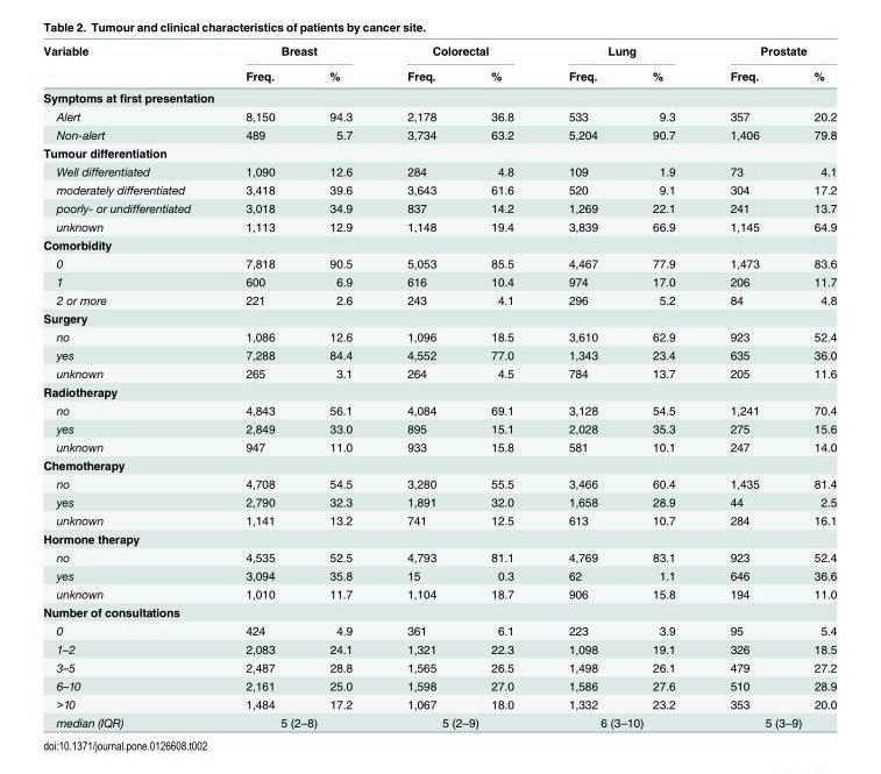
<table><thead><tr><td rowspan="2">Variable</td><td colspan="2">Breast</td><td colspan="2">Colorectal</td><td colspan="2">Lung</td><td colspan="2">Prostate</td></tr><tr><td>Freq.</td><td>%</td><td>Freq.</td><td>%</td><td>Freq.</td><td>%</td><td>Freq.</td><td>%</td></tr></thead><tbody><tr><td colspan="9">Symptoms at first presentation</td></tr><tr><td>Alert</td><td>8,150</td><td>94.3</td><td>2,178</td><td>36.8</td><td>533</td><td>9.3</td><td>357</td><td>20.2</td></tr><tr><td>Non-alert</td><td>489</td><td>5.7</td><td>3,734</td><td>63.2</td><td>5,204</td><td>90.7</td><td>1,406</td><td>79.8</td></tr><tr><td colspan="9">Tumour differentiation</td></tr><tr><td>Well differentiated</td><td>1,090</td><td>12.6</td><td>284</td><td>4.8</td><td>109</td><td>1.9</td><td>73</td><td>4.1</td></tr><tr><td>moderately differentiated</td><td>3,418</td><td>39.6</td><td>3,643</td><td>61.6</td><td>520</td><td>9.1</td><td>304</td><td>17.2</td></tr><tr><td>poorly- or undifferentiated</td><td>3,018</td><td>34.9</td><td>837</td><td>14.2</td><td>1,269</td><td>22.1</td><td>241</td><td>13.7</td></tr><tr><td>unknown</td><td>1,113</td><td>12.9</td><td>1,148</td><td>19.4</td><td>3,839</td><td>66.9</td><td>1,145</td><td>64.9</td></tr><tr><td colspan="9">Comorbidity</td></tr><tr><td>0</td><td>7,818</td><td>90.5</td><td>5,053</td><td>85.5</td><td>4,467</td><td>77.9</td><td>1,473</td><td>83.6</td></tr><tr><td>1</td><td>600</td><td>6.9</td><td>616</td><td>10.4</td><td>974</td><td>17.0</td><td>206</td><td>11.7</td></tr><tr><td>2 or more</td><td>221</td><td>2.6</td><td>243</td><td>4.1</td><td>296</td><td>5.2</td><td>84</td><td>4.8</td></tr><tr><td colspan="9">Surgery</td></tr><tr><td>no</td><td>1,086</td><td>12.6</td><td>1,096</td><td>18.5</td><td>3,610</td><td>62.9</td><td>923</td><td>52.4</td></tr><tr><td>yes</td><td>7,288</td><td>84.4</td><td>4,552</td><td>77.0</td><td>1,343</td><td>23.4</td><td>635</td><td>36.0</td></tr><tr><td>unknown</td><td>265</td><td>3.1</td><td>264</td><td>4.5</td><td>784</td><td>13.7</td><td>205</td><td>11.6</td></tr><tr><td colspan="9">Radiotherapy</td></tr><tr><td>no</td><td>4,843</td><td>56.1</td><td>4,084</td><td>69.1</td><td>3,128</td><td>54.5</td><td>1,241</td><td>70.4</td></tr><tr><td>yes</td><td>2,849</td><td>33.0</td><td>895</td><td>15.1</td><td>2,028</td><td>35.3</td><td>275</td><td>15.6</td></tr><tr><td>unknown</td><td>947</td><td>11.0</td><td>933</td><td>15.8</td><td>581</td><td>10.1</td><td>247</td><td>14.0</td></tr><tr><td colspan="9">Chemotherapy</td></tr><tr><td>no</td><td>4,708</td><td>54.5</td><td>3,280</td><td>55.5</td><td>3,466</td><td>60.4</td><td>1,435</td><td>81.4</td></tr><tr><td>yes</td><td>2,790</td><td>32.3</td><td>1,891</td><td>32.0</td><td>1,658</td><td>28.9</td><td>44</td><td>2.5</td></tr><tr><td>unknown</td><td>1,141</td><td>13.2</td><td>741</td><td>12.5</td><td>613</td><td>10.7</td><td>284</td><td>16.1</td></tr><tr><td colspan="9">Hormone therapy</td></tr><tr><td>no</td><td>4,535</td><td>52.5</td><td>4,793</td><td>81.1</td><td>4,769</td><td>83.1</td><td>923</td><td>52.4</td></tr><tr><td>yes</td><td>3,094</td><td>35.8</td><td>15</td><td>0.3</td><td>62</td><td>1.1</td><td>646</td><td>36.6</td></tr><tr><td>unknown</td><td>1,010</td><td>11.7</td><td>1,104</td><td>18.7</td><td>906</td><td>15.8</td><td>194</td><td>11.0</td></tr><tr><td colspan="9">Number of consultations</td></tr><tr><td>0</td><td>424</td><td>4.9</td><td>361</td><td>6.1</td><td>223</td><td>3.9</td><td>95</td><td>5.4</td></tr><tr><td>1–2</td><td>2,083</td><td>24.1</td><td>1,321</td><td>22.3</td><td>1,098</td><td>19.1</td><td>326</td><td>18.5</td></tr><tr><td>3–5</td><td>2,487</td><td>28.8</td><td>1,565</td><td>26.5</td><td>1,498</td><td>26.1</td><td>479</td><td>27.2</td></tr><tr><td>6–10</td><td>2,161</td><td>25.0</td><td>1,598</td><td>27.0</td><td>1,586</td><td>27.6</td><td>510</td><td>28.9</td></tr><tr><td>&gt;10</td><td>1,484</td><td>17.2</td><td>1,067</td><td>18.0</td><td>1,332</td><td>23.2</td><td>353</td><td>20.0</td></tr><tr><td>median (IQR)</td><td colspan="2">5 (2–8)</td><td colspan="2">5 (2–9)</td><td colspan="2">6 (3–10)</td><td colspan="2">5 (3–9)</td></tr></tbody></table>